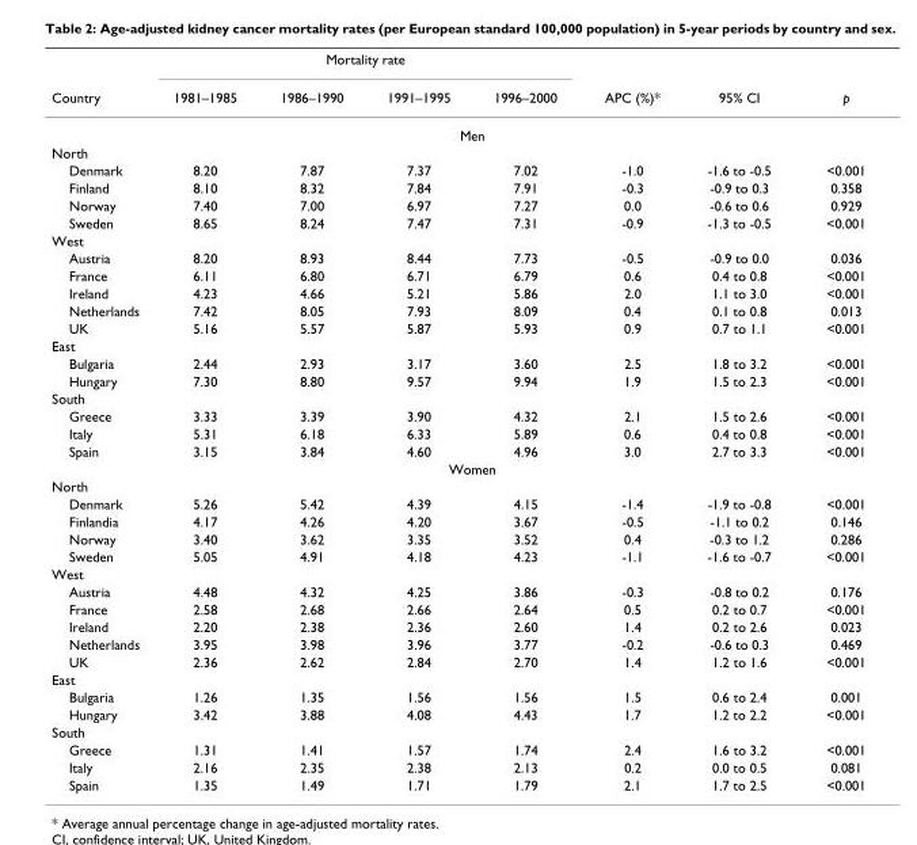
<table><thead><tr><td rowspan="2">Country</td><td colspan="4">Mortality rate</td><td rowspan="2">APC (%)*</td><td rowspan="2">95% CI</td><td rowspan="2">p</td></tr><tr><td>1981–1985</td><td>1986–1990</td><td>1991–1995</td><td>1996–2000</td></tr></thead><tbody><tr><td colspan="8">Men</td></tr><tr><td colspan="8">North</td></tr><tr><td>Denmark</td><td>8.20</td><td>7.87</td><td>7.37</td><td>7.02</td><td>-1.0</td><td>-1.6 to -0.5</td><td>&lt;0.001</td></tr><tr><td>Finland</td><td>8.10</td><td>8.32</td><td>7.84</td><td>7.91</td><td>-0.3</td><td>-0.9 to 0.3</td><td>0.358</td></tr><tr><td>Norway</td><td>7.40</td><td>7.00</td><td>6.97</td><td>7.27</td><td>0.0</td><td>-0.6 to 0.6</td><td>0.929</td></tr><tr><td>Sweden</td><td>8.65</td><td>8.24</td><td>7.47</td><td>7.31</td><td>-0.9</td><td>-1.3 to -0.5</td><td>&lt;0.001</td></tr><tr><td colspan="8">West</td></tr><tr><td>Austria</td><td>8.20</td><td>8.93</td><td>8.44</td><td>7.73</td><td>-0.5</td><td>-0.9 to 0.0</td><td>0.036</td></tr><tr><td>France</td><td>6.11</td><td>6.80</td><td>6.71</td><td>6.79</td><td>0.6</td><td>0.4 to 0.8</td><td>&lt;0.001</td></tr><tr><td>Ireland</td><td>4.23</td><td>4.66</td><td>5.21</td><td>5.86</td><td>2.0</td><td>1.1 to 3.0</td><td>&lt;0.001</td></tr><tr><td>Netherlands</td><td>7.42</td><td>8.05</td><td>7.93</td><td>8.09</td><td>0.4</td><td>0.1 to 0.8</td><td>0.013</td></tr><tr><td>UK</td><td>5.16</td><td>5.57</td><td>5.87</td><td>5.93</td><td>0.9</td><td>0.7 to 1.1</td><td>&lt;0.001</td></tr><tr><td colspan="8">East</td></tr><tr><td>Bulgaria</td><td>2.44</td><td>2.93</td><td>3.17</td><td>3.60</td><td>2.5</td><td>1.8 to 3.2</td><td>&lt;0.001</td></tr><tr><td>Hungary</td><td>7.30</td><td>8.80</td><td>9.57</td><td>9.94</td><td>1.9</td><td>1.5 to 2.3</td><td>&lt;0.001</td></tr><tr><td colspan="8">South</td></tr><tr><td>Greece</td><td>3.33</td><td>3.39</td><td>3.90</td><td>4.32</td><td>2.1</td><td>1.5 to 2.6</td><td>&lt;0.001</td></tr><tr><td>Italy</td><td>5.31</td><td>6.18</td><td>6.33</td><td>5.89</td><td>0.6</td><td>0.4 to 0.8</td><td>&lt;0.001</td></tr><tr><td>Spain</td><td>3.15</td><td>3.84</td><td>4.60</td><td>4.96</td><td>3.0</td><td>2.7 to 3.3</td><td>&lt;0.001</td></tr><tr><td colspan="8">Women</td></tr><tr><td colspan="8">North</td></tr><tr><td>Denmark</td><td>5.26</td><td>5.42</td><td>4.39</td><td>4.15</td><td>-1.4</td><td>-1.9 to -0.8</td><td>&lt;0.001</td></tr><tr><td>Finlandia</td><td>4.17</td><td>4.26</td><td>4.20</td><td>3.67</td><td>-0.5</td><td>-1.1 to 0.2</td><td>0.146</td></tr><tr><td>Norway</td><td>3.40</td><td>3.62</td><td>3.35</td><td>3.52</td><td>0.4</td><td>-0.3 to 1.2</td><td>0.286</td></tr><tr><td>Sweden</td><td>5.05</td><td>4.91</td><td>4.18</td><td>4.23</td><td>-1.1</td><td>-1.6 to -0.7</td><td>&lt;0.001</td></tr><tr><td colspan="8">West</td></tr><tr><td>Austria</td><td>4.48</td><td>4.32</td><td>4.25</td><td>3.86</td><td>-0.3</td><td>-0.8 to 0.2</td><td>0.176</td></tr><tr><td>France</td><td>2.58</td><td>2.68</td><td>2.66</td><td>2.64</td><td>0.5</td><td>0.2 to 0.7</td><td>&lt;0.001</td></tr><tr><td>Ireland</td><td>2.20</td><td>2.38</td><td>2.36</td><td>2.60</td><td>1.4</td><td>0.2 to 2.6</td><td>0.023</td></tr><tr><td>Netherlands</td><td>3.95</td><td>3.98</td><td>3.96</td><td>3.77</td><td>-0.2</td><td>-0.6 to 0.3</td><td>0.469</td></tr><tr><td>UK</td><td>2.36</td><td>2.62</td><td>2.84</td><td>2.70</td><td>1.4</td><td>1.2 to 1.6</td><td>&lt;0.001</td></tr><tr><td colspan="8">East</td></tr><tr><td>Bulgaria</td><td>1.26</td><td>1.35</td><td>1.56</td><td>1.56</td><td>1.5</td><td>0.6 to 2.4</td><td>0.001</td></tr><tr><td>Hungary</td><td>3.42</td><td>3.88</td><td>4.08</td><td>4.43</td><td>1.7</td><td>1.2 to 2.2</td><td>&lt;0.001</td></tr><tr><td colspan="8">South</td></tr><tr><td>Greece</td><td>1.31</td><td>1.41</td><td>1.57</td><td>1.74</td><td>2.4</td><td>1.6 to 3.2</td><td>&lt;0.001</td></tr><tr><td>Italy</td><td>2.16</td><td>2.35</td><td>2.38</td><td>2.13</td><td>0.2</td><td>0.0 to 0.5</td><td>0.081</td></tr><tr><td>Spain</td><td>1.35</td><td>1.49</td><td>1.71</td><td>1.79</td><td>2.1</td><td>1.7 to 2.5</td><td>&lt;0.001</td></tr></tbody></table>